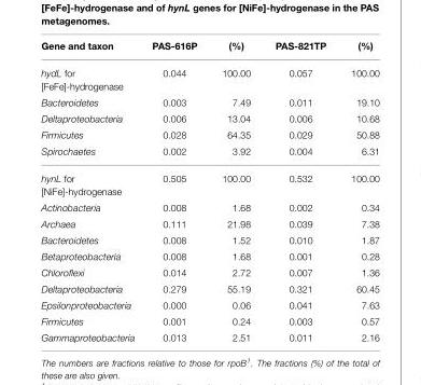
<table><thead><tr><td>Gene and taxon</td><td>PAS-616P</td><td>(%)</td><td>PAS-821TP</td><td>(%)</td></tr></thead><tbody><tr><td>hydL for [FeFe]-hydrogenase</td><td>0.044</td><td>100.00</td><td>0.057</td><td>100.00</td></tr><tr><td>Bacteroidetes</td><td>0.003</td><td>7.49</td><td>0.011</td><td>19.10</td></tr><tr><td>Deltaproteobacteria</td><td>0.006</td><td>13.04</td><td>0.006</td><td>10.68</td></tr><tr><td>Firmicutes</td><td>0.028</td><td>64.35</td><td>0.029</td><td>50.88</td></tr><tr><td>Spirochaetes</td><td>0.002</td><td>3.92</td><td>0.004</td><td>6.31</td></tr><tr><td>hynL for [NiFe]-hydrogenase</td><td>0.505</td><td>100.00</td><td>0.532</td><td>100.00</td></tr><tr><td>Actinobacteria</td><td>0.008</td><td>1.68</td><td>0.002</td><td>0.34</td></tr><tr><td>Archaea</td><td>0.111</td><td>21.98</td><td>0.039</td><td>7.38</td></tr><tr><td>Bacteroidetes</td><td>0.008</td><td>1.52</td><td>0.010</td><td>1.87</td></tr><tr><td>Betaproteobacteria</td><td>0.008</td><td>1.68</td><td>0.001</td><td>0.28</td></tr><tr><td>Chloroflexi</td><td>0.014</td><td>2.72</td><td>0.007</td><td>1.36</td></tr><tr><td>Deltaproteobacteria</td><td>0.279</td><td>55.19</td><td>0.321</td><td>60.45</td></tr><tr><td>Epsilonproteobacteria</td><td>0.000</td><td>0.06</td><td>0.041</td><td>7.63</td></tr><tr><td>Firmicutes</td><td>0.001</td><td>0.24</td><td>0.003</td><td>0.57</td></tr><tr><td>Gammaproteobacteria</td><td>0.013</td><td>2.51</td><td>0.011</td><td>2.16</td></tr></tbody></table>